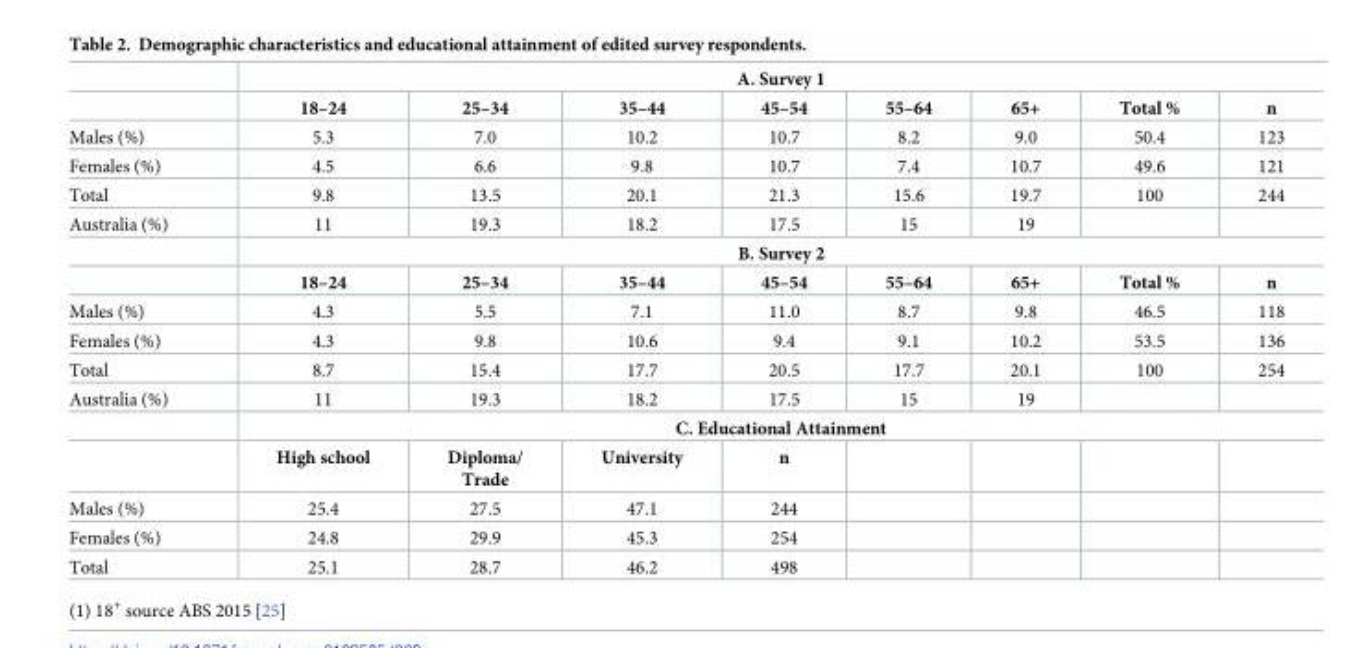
<table><thead><tr><td rowspan="2"></td><td colspan="8">A. Survey 1</td></tr><tr><td>18–24</td><td>25–34</td><td>35–44</td><td>45–54</td><td>55–64</td><td>65+</td><td>Total %</td><td>n</td></tr></thead><tbody><tr><td>Males (%)</td><td>5.3</td><td>7.0</td><td>10.2</td><td>10.7</td><td>8.2</td><td>9.0</td><td>50.4</td><td>123</td></tr><tr><td>Females (%)</td><td>4.5</td><td>6.6</td><td>9.8</td><td>10.7</td><td>7.4</td><td>10.7</td><td>49.6</td><td>121</td></tr><tr><td>Total</td><td>9.8</td><td>13.5</td><td>20.1</td><td>21.3</td><td>15.6</td><td>19.7</td><td>100</td><td>244</td></tr><tr><td rowspan="3">Australia (%)</td><td>11</td><td>19.3</td><td>18.2</td><td>17.5</td><td>15</td><td>19</td><td></td><td></td></tr><tr><td colspan="8">B. Survey 2</td></tr><tr><td>18–24</td><td>25–34</td><td>35–44</td><td>45–54</td><td>55–64</td><td>65+</td><td>Total %</td><td>n</td></tr><tr><td>Males (%)</td><td>4.3</td><td>5.5</td><td>7.1</td><td>11.0</td><td>8.7</td><td>9.8</td><td>46.5</td><td>118</td></tr><tr><td>Females (%)</td><td>4.3</td><td>9.8</td><td>10.6</td><td>9.4</td><td>9.1</td><td>10.2</td><td>53.5</td><td>136</td></tr><tr><td>Total</td><td>8.7</td><td>15.4</td><td>17.7</td><td>20.5</td><td>17.7</td><td>20.1</td><td>100</td><td>254</td></tr><tr><td rowspan="3">Australia (%)</td><td>11</td><td>19.3</td><td>18.2</td><td>17.5</td><td>15</td><td>19</td><td></td><td></td></tr><tr><td colspan="8">C. Educational Attainment</td></tr><tr><td>High school</td><td>Diploma/ Trade</td><td>University</td><td>n</td><td></td><td></td><td></td><td></td></tr><tr><td>Males (%)</td><td>25.4</td><td>27.5</td><td>47.1</td><td>244</td><td></td><td></td><td></td><td></td></tr><tr><td>Females (%)</td><td>24.8</td><td>29.9</td><td>45.3</td><td>254</td><td></td><td></td><td></td><td></td></tr><tr><td>Total</td><td>25.1</td><td>28.7</td><td>46.2</td><td>498</td><td></td><td></td><td></td><td></td></tr></tbody></table>